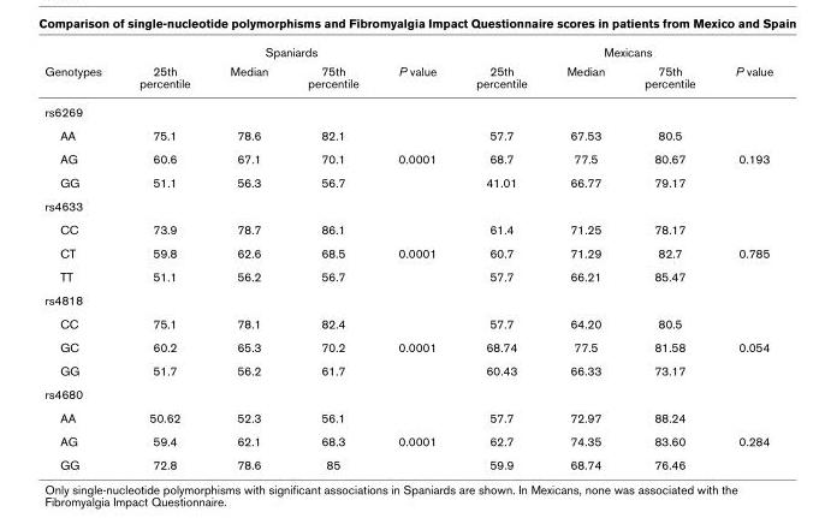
<table><thead><tr><td rowspan="2">Genotypes</td><td colspan="4">Spaniards</td><td colspan="4">Mexicans</td></tr><tr><td>25th percentile</td><td>Median</td><td>75th percentile</td><td>P value</td><td>25th percentile</td><td>Median</td><td>75th percentile</td><td>P value</td></tr></thead><tbody><tr><td colspan="9">rs6269</td></tr><tr><td>AA</td><td>75.1</td><td>78.6</td><td>82.1</td><td></td><td>57.7</td><td>67.53</td><td>80.5</td><td></td></tr><tr><td>AG</td><td>60.6</td><td>67.1</td><td>70.1</td><td>0.0001</td><td>68.7</td><td>77.5</td><td>80.67</td><td>0.193</td></tr><tr><td>GG</td><td>51.1</td><td>56.3</td><td>56.7</td><td></td><td>41.01</td><td>66.77</td><td>79.17</td><td></td></tr><tr><td colspan="9">rs4633</td></tr><tr><td>CC</td><td>73.9</td><td>78.7</td><td>86.1</td><td></td><td>61.4</td><td>71.25</td><td>78.17</td><td></td></tr><tr><td>CT</td><td>59.8</td><td>62.6</td><td>68.5</td><td>0.0001</td><td>60.7</td><td>71.29</td><td>82.7</td><td>0.785</td></tr><tr><td>TT</td><td>51.1</td><td>56.2</td><td>56.7</td><td></td><td>57.7</td><td>66.21</td><td>85.47</td><td></td></tr><tr><td colspan="9">rs4818</td></tr><tr><td>CC</td><td>75.1</td><td>78.1</td><td>82.4</td><td></td><td>57.7</td><td>64.20</td><td>80.5</td><td></td></tr><tr><td>GC</td><td>60.2</td><td>65.3</td><td>70.2</td><td>0.0001</td><td>68.74</td><td>77.5</td><td>81.58</td><td>0.054</td></tr><tr><td>GG</td><td>51.7</td><td>56.2</td><td>61.7</td><td></td><td>60.43</td><td>66.33</td><td>73.17</td><td></td></tr><tr><td colspan="9">rs4680</td></tr><tr><td>AA</td><td>50.62</td><td>52.3</td><td>56.1</td><td></td><td>57.7</td><td>72.97</td><td>88.24</td><td></td></tr><tr><td>AG</td><td>59.4</td><td>62.1</td><td>68.3</td><td>0.0001</td><td>62.7</td><td>74.35</td><td>83.60</td><td>0.284</td></tr><tr><td>GG</td><td>72.8</td><td>78.6</td><td>85</td><td></td><td>59.9</td><td>68.74</td><td>76.46</td><td></td></tr></tbody></table>